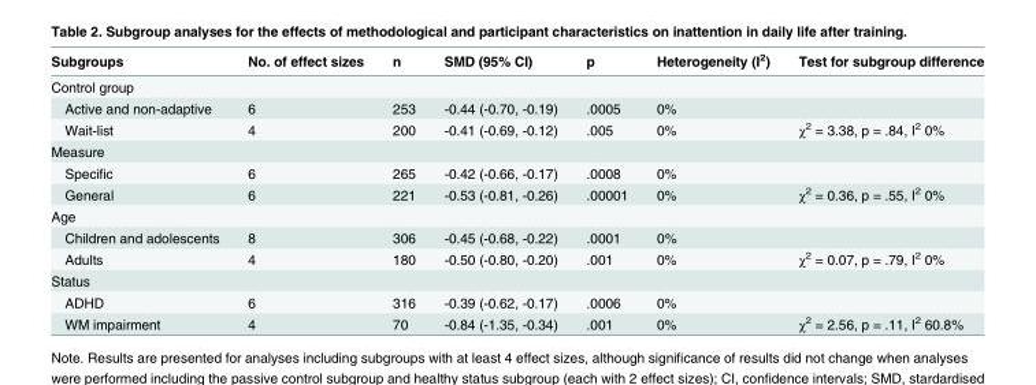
<table><thead><tr><td>Subgroups</td><td>No. of effect sizes</td><td>n</td><td>SMD (95% CI)</td><td>p</td><td>Heterogeneity (I<sup>2</sup>)</td><td>Test for subgroup difference</td></tr></thead><tbody><tr><td colspan="7">Control group</td></tr><tr><td>Active and non-adaptive</td><td>6</td><td>253</td><td>-0.44 (-0.70, -0.19)</td><td>.0005</td><td>0%</td><td></td></tr><tr><td>Wait-list</td><td>4</td><td>200</td><td>-0.41 (-0.69, -0.12)</td><td>.005</td><td>0%</td><td>χ<sup>2</sup> = 3.38, p = .84, I<sup>2</sup> 0%</td></tr><tr><td colspan="7">Measure</td></tr><tr><td>Specific</td><td>6</td><td>265</td><td>-0.42 (-0.66, -0.17)</td><td>.0008</td><td>0%</td><td></td></tr><tr><td>General</td><td>6</td><td>221</td><td>-0.53 (-0.81, -0.26)</td><td>.00001</td><td>0%</td><td>χ<sup>2</sup> = 0.36, p = .55, I<sup>2</sup> 0%</td></tr><tr><td colspan="7">Age</td></tr><tr><td>Children and adolescents</td><td>8</td><td>306</td><td>-0.45 (-0.68, -0.22)</td><td>.0001</td><td>0%</td><td></td></tr><tr><td>Adults</td><td>4</td><td>180</td><td>-0.50 (-0.80, -0.20)</td><td>.001</td><td>0%</td><td>χ<sup>2</sup> = 0.07, p = .79, I<sup>2</sup> 0%</td></tr><tr><td colspan="7">Status</td></tr><tr><td>ADHD</td><td>6</td><td>316</td><td>-0.39 (-0.62, -0.17)</td><td>.0006</td><td>0%</td><td></td></tr><tr><td>WM impairment</td><td>4</td><td>70</td><td>-0.84 (-1.35, -0.34)</td><td>.001</td><td>0%</td><td>χ<sup>2</sup> = 2.56, p = .11, I<sup>2</sup> 60.8%</td></tr></tbody></table>